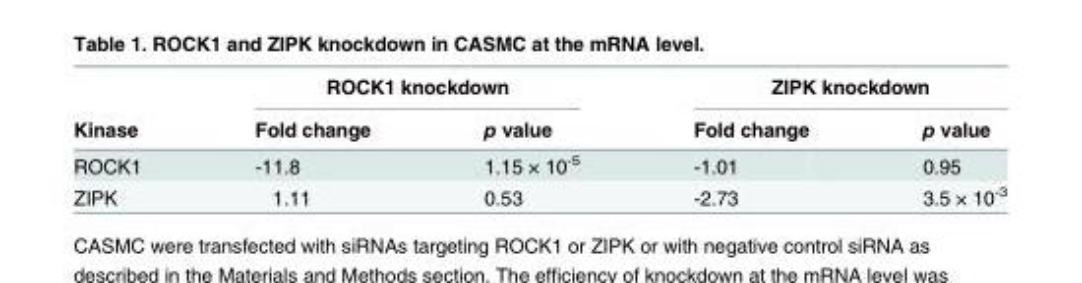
<table><thead><tr><td rowspan="2">Kinase</td><td colspan="2">ROCK1 knockdown</td><td colspan="2">ZIPK knockdown</td></tr><tr><td>Fold change</td><td>p value</td><td>Fold change</td><td>p value</td></tr></thead><tbody><tr><td>ROCK1</td><td>-11.8</td><td>1.15 × 10<sup>-5</sup></td><td>-1.01</td><td>0.95</td></tr><tr><td>ZIPK</td><td>1.11</td><td>0.53</td><td>-2.73</td><td>3.5 × 10<sup>-3</sup></td></tr></tbody></table>